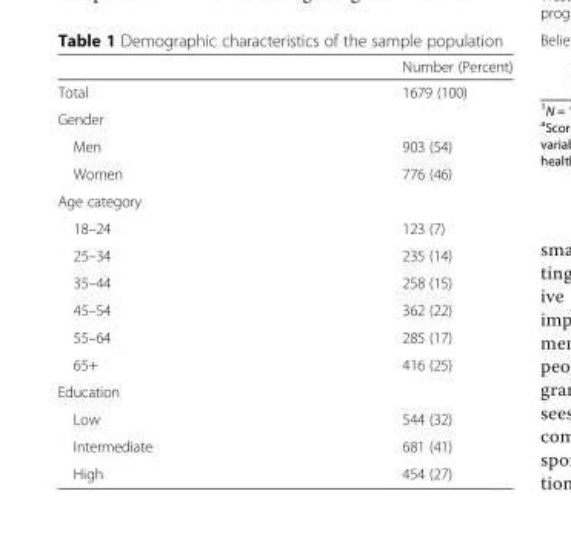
<table><thead><tr><td></td><td>Number (Percent)</td></tr></thead><tbody><tr><td>Total</td><td>1679 (100)</td></tr><tr><td colspan="2">Gender</td></tr><tr><td>Men</td><td>903 (54)</td></tr><tr><td>Women</td><td>776 (46)</td></tr><tr><td colspan="2">Age category</td></tr><tr><td>18–24</td><td>123 (7)</td></tr><tr><td>25–34</td><td>235 (14)</td></tr><tr><td>35–44</td><td>258 (15)</td></tr><tr><td>45–54</td><td>362 (22)</td></tr><tr><td>55–64</td><td>285 (17)</td></tr><tr><td>65+</td><td>416 (25)</td></tr><tr><td colspan="2">Education</td></tr><tr><td>Low</td><td>544 (32)</td></tr><tr><td>Intermediate</td><td>681 (41)</td></tr><tr><td>High</td><td>454 (27)</td></tr></tbody></table>